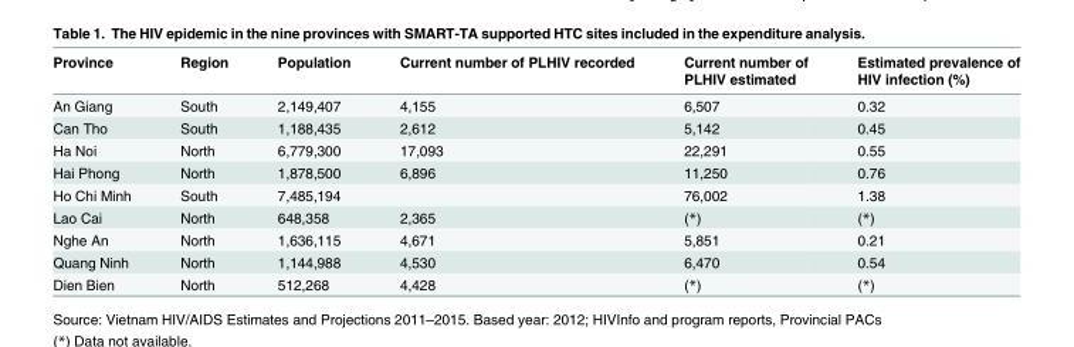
<table><thead><tr><td>Province</td><td>Region</td><td>Population</td><td>Current number of PLHIV recorded</td><td>Current number of PLHIV estimated</td><td>Estimated prevalence of HIV infection (%)</td></tr></thead><tbody><tr><td>An Giang</td><td>South</td><td>2,149,407</td><td>4,155</td><td>6,507</td><td>0.32</td></tr><tr><td>Can Tho</td><td>South</td><td>1,188,435</td><td>2,612</td><td>5,142</td><td>0.45</td></tr><tr><td>Ha Noi</td><td>North</td><td>6,779,300</td><td>17,093</td><td>22,291</td><td>0.55</td></tr><tr><td>Hai Phong</td><td>North</td><td>1,878,500</td><td>6,896</td><td>11,250</td><td>0.76</td></tr><tr><td>Ho Chi Minh</td><td>South</td><td>7,485,194</td><td></td><td>76,002</td><td>1.38</td></tr><tr><td>Lao Cai</td><td>North</td><td>648,358</td><td>2,365</td><td>(*)</td><td>(*)</td></tr><tr><td>Nghe An</td><td>North</td><td>1,636,115</td><td>4,671</td><td>5,851</td><td>0.21</td></tr><tr><td>Quang Ninh</td><td>North</td><td>1,144,988</td><td>4,530</td><td>6,470</td><td>0.54</td></tr><tr><td>Dien Bien</td><td>North</td><td>512,268</td><td>4,428</td><td>(*)</td><td>(*)</td></tr></tbody></table>